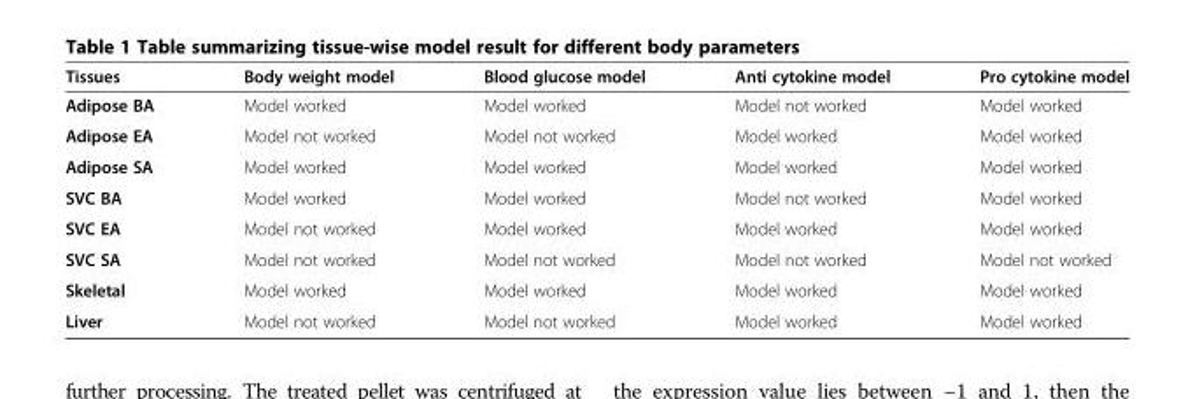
<table><thead><tr><td>Tissues</td><td>Body weight model</td><td>Blood glucose model</td><td>Anti cytokine model</td><td>Pro cytokine model</td></tr></thead><tbody><tr><td>Adipose BA</td><td>Model worked</td><td>Model worked</td><td>Model not worked</td><td>Model worked</td></tr><tr><td>Adipose EA</td><td>Model not worked</td><td>Model not worked</td><td>Model worked</td><td>Model worked</td></tr><tr><td>Adipose SA</td><td>Model worked</td><td>Model worked</td><td>Model worked</td><td>Model worked</td></tr><tr><td>SVC BA</td><td>Model worked</td><td>Model worked</td><td>Model not worked</td><td>Model worked</td></tr><tr><td>SVC EA</td><td>Model not worked</td><td>Model worked</td><td>Model worked</td><td>Model worked</td></tr><tr><td>SVC SA</td><td>Model not worked</td><td>Model not worked</td><td>Model not worked</td><td>Model not worked</td></tr><tr><td>Skeletal</td><td>Model worked</td><td>Model worked</td><td>Model worked</td><td>Model worked</td></tr><tr><td>Liver</td><td>Model not worked</td><td>Model not worked</td><td>Model worked</td><td>Model worked</td></tr></tbody></table>